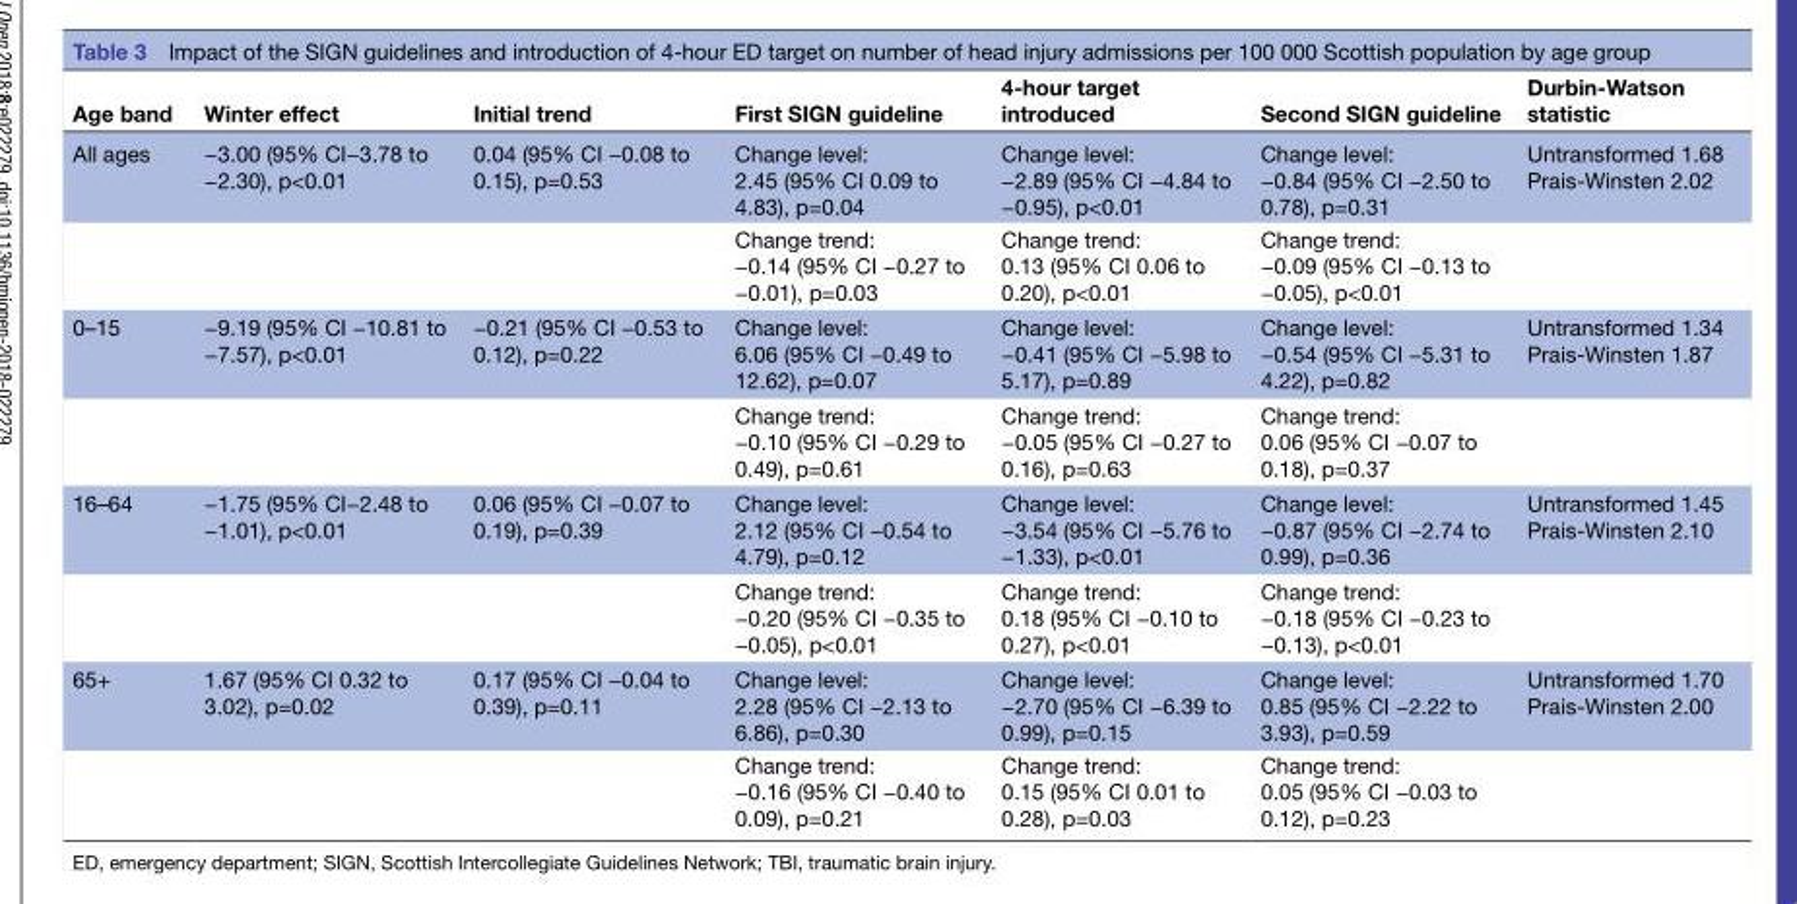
<table><thead><tr><td>Age band</td><td>Winter effect</td><td>Initial trend</td><td>First SIGN guideline</td><td>4-hour target introduced</td><td>Second SIGN guideline</td><td>Durbin-Watson statistic</td></tr></thead><tbody><tr><td rowspan="2">All ages</td><td>−3.00 (95% CI−3.78 to −2.30), p&lt;0.01</td><td>0.04 (95% CI −0.08 to 0.15), p=0.53</td><td>Change level: 2.45 (95% CI 0.09 to 4.83), p=0.04</td><td>Change level: −2.89 (95% CI −4.84 to −0.95), p&lt;0.01</td><td>Change level: −0.84 (95% CI −2.50 to 0.78), p=0.31</td><td>Untransformed 1.68 Prais-Winsten 2.02</td></tr><tr><td></td><td></td><td>Change trend: −0.14 (95% CI −0.27 to −0.01), p=0.03</td><td>Change trend: 0.13 (95% CI 0.06 to 0.20), p&lt;0.01</td><td>Change trend: −0.09 (95% CI −0.13 to −0.05), p&lt;0.01</td><td></td></tr><tr><td rowspan="2">0–15</td><td>−9.19 (95% CI −10.81 to −7.57), p&lt;0.01</td><td>−0.21 (95% CI −0.53 to 0.12), p=0.22</td><td>Change level: 6.06 (95% CI −0.49 to 12.62), p=0.07</td><td>Change level: −0.41 (95% CI −5.98 to 5.17), p=0.89</td><td>Change level: −0.54 (95% CI −5.31 to 4.22), p=0.82</td><td>Untransformed 1.34 Prais-Winsten 1.87</td></tr><tr><td></td><td></td><td>Change trend: −0.10 (95% CI −0.29 to 0.49), p=0.61</td><td>Change trend: −0.05 (95% CI −0.27 to 0.16), p=0.63</td><td>Change trend: 0.06 (95% CI −0.07 to 0.18), p=0.37</td><td></td></tr><tr><td rowspan="2">16–64</td><td>−1.75 (95% CI−2.48 to −1.01), p&lt;0.01</td><td>0.06 (95% CI −0.07 to 0.19), p=0.39</td><td>Change level: 2.12 (95% CI −0.54 to 4.79), p=0.12</td><td>Change level: −3.54 (95% CI −5.76 to −1.33), p&lt;0.01</td><td>Change level: −0.87 (95% CI −2.74 to 0.99), p=0.36</td><td>Untransformed 1.45 Prais-Winsten 2.10</td></tr><tr><td></td><td></td><td>Change trend: −0.20 (95% CI −0.35 to −0.05), p&lt;0.01</td><td>Change trend: 0.18 (95% CI −0.10 to 0.27), p&lt;0.01</td><td>Change trend: −0.18 (95% CI −0.23 to −0.13), p&lt;0.01</td><td></td></tr><tr><td rowspan="2">65+</td><td>1.67 (95% CI 0.32 to 3.02), p=0.02</td><td>0.17 (95% CI −0.04 to 0.39), p=0.11</td><td>Change level: 2.28 (95% CI −2.13 to 6.86), p=0.30</td><td>Change level: −2.70 (95% CI −6.39 to 0.99), p=0.15</td><td>Change level: 0.85 (95% CI −2.22 to 3.93), p=0.59</td><td>Untransformed 1.70 Prais-Winsten 2.00</td></tr><tr><td></td><td></td><td>Change trend: −0.16 (95% CI −0.40 to 0.09), p=0.21</td><td>Change trend: 0.15 (95% CI 0.01 to 0.28), p=0.03</td><td>Change trend: 0.05 (95% CI −0.03 to 0.12), p=0.23</td><td></td></tr></tbody></table>